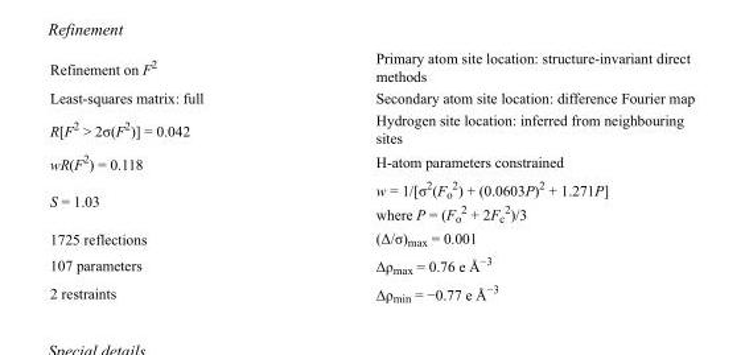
<table><tbody><tr><td>Refinement on F<sup>2</sup></td><td>Primary atom site location: structure-invariant direct methods</td></tr><tr><td>Least-squares matrix: full</td><td>Secondary atom site location: difference Fourier map</td></tr><tr><td>R[F<sup>2</sup> &gt; 2σ(F<sup>2</sup>)] = 0.042</td><td>Hydrogen site location: inferred from neighbouring sites</td></tr><tr><td>wR(F<sup>2</sup>) = 0.118</td><td>H-atom parameters constrained</td></tr><tr><td>S = 1.03</td><td>w = 1/[σ<sup>2</sup>(F<sub>o</sub> <sup>2</sup>) + (0.0603P)<sup>2</sup> + 1.271P] where P = (F<sub>o</sub> <sup>2</sup> + 2F<sub>c</sub> <sup>2</sup>)/3</td></tr><tr><td>1725 reflections</td><td>(Δ/σ)<sub>max</sub> = 0.001</td></tr><tr><td>107 parameters</td><td>Δρ<sub>max</sub> = 0.76 e Å<sup>−3</sup></td></tr><tr><td>2 restraints</td><td>Δρ<sub>min</sub> = −0.77 e Å<sup>−3</sup></td></tr></tbody></table>